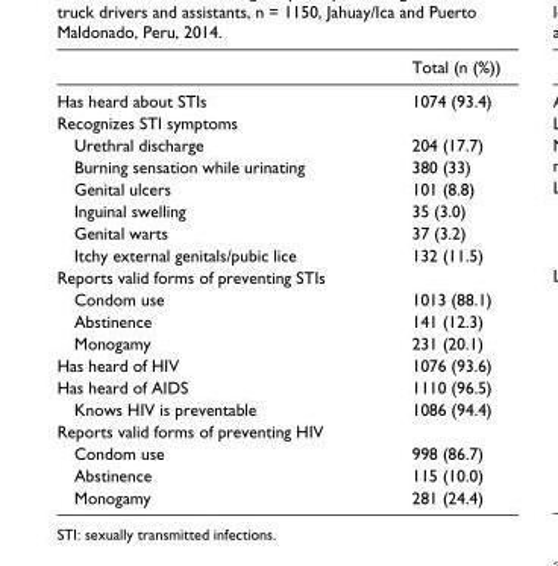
<table><thead><tr><td></td><td>Total (n (%))</td></tr></thead><tbody><tr><td>Has heard about STIs</td><td>1074 (93.4)</td></tr><tr><td colspan="2">Recognizes STI symptoms</td></tr><tr><td>Urethral discharge</td><td>204 (17.7)</td></tr><tr><td>Burning sensation while urinating</td><td>380 (33)</td></tr><tr><td>Genital ulcers</td><td>101 (8.8)</td></tr><tr><td>Inguinal swelling</td><td>35 (3.0)</td></tr><tr><td>Genital warts</td><td>37 (3.2)</td></tr><tr><td>Itchy external genitals/pubic lice</td><td>132 (11.5)</td></tr><tr><td colspan="2">Reports valid forms of preventing STIs</td></tr><tr><td>Condom use</td><td>1013 (88.1)</td></tr><tr><td>Abstinence</td><td>141 (12.3)</td></tr><tr><td>Monogamy</td><td>231 (20.1)</td></tr><tr><td>Has heard of HIV</td><td>1076 (93.6)</td></tr><tr><td>Has heard of AIDS</td><td>1110 (96.5)</td></tr><tr><td>Knows HIV is preventable</td><td>1086 (94.4)</td></tr><tr><td colspan="2">Reports valid forms of preventing HIV</td></tr><tr><td>Condom use</td><td>998 (86.7)</td></tr><tr><td>Abstinence</td><td>115 (10.0)</td></tr><tr><td>Monogamy</td><td>281 (24.4)</td></tr></tbody></table>